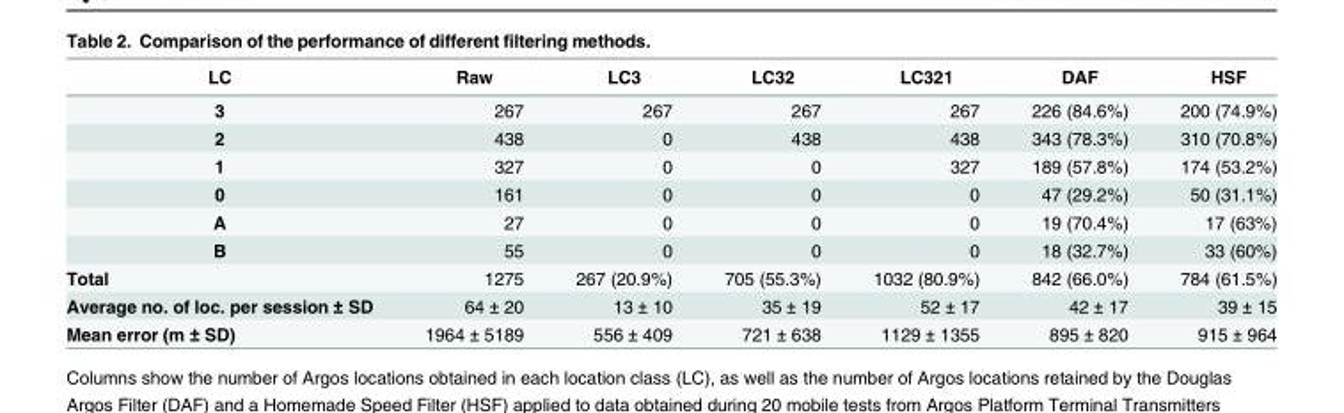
<table><thead><tr><td>LC</td><td>Raw</td><td>LC3</td><td>LC32</td><td>LC321</td><td>DAF</td><td>HSF</td></tr></thead><tbody><tr><td>3</td><td>267</td><td>267</td><td>267</td><td>267</td><td>226 (84.6%)</td><td>200 (74.9%)</td></tr><tr><td>2</td><td>438</td><td>0</td><td>438</td><td>438</td><td>343 (78.3%)</td><td>310 (70.8%)</td></tr><tr><td>1</td><td>327</td><td>0</td><td>0</td><td>327</td><td>189 (57.8%)</td><td>174 (53.2%)</td></tr><tr><td>0</td><td>161</td><td>0</td><td>0</td><td>0</td><td>47 (29.2%)</td><td>50 (31.1%)</td></tr><tr><td>A</td><td>27</td><td>0</td><td>0</td><td>0</td><td>19 (70.4%)</td><td>17 (63%)</td></tr><tr><td>B</td><td>55</td><td>0</td><td>0</td><td>0</td><td>18 (32.7%)</td><td>33 (60%)</td></tr><tr><td>Total</td><td>1275</td><td>267 (20.9%)</td><td>705 (55.3%)</td><td>1032 (80.9%)</td><td>842 (66.0%)</td><td>784 (61.5%)</td></tr><tr><td>Average no. of loc. per session ± SD</td><td>64 ± 20</td><td>13 ± 10</td><td>35 ± 19</td><td>52 ± 17</td><td>42 ± 17</td><td>39 ± 15</td></tr><tr><td>Mean error (m ± SD)</td><td>1964 ± 5189</td><td>556 ± 409</td><td>721 ± 638</td><td>1129 ± 1355</td><td>895 ± 820</td><td>915 ± 964</td></tr></tbody></table>